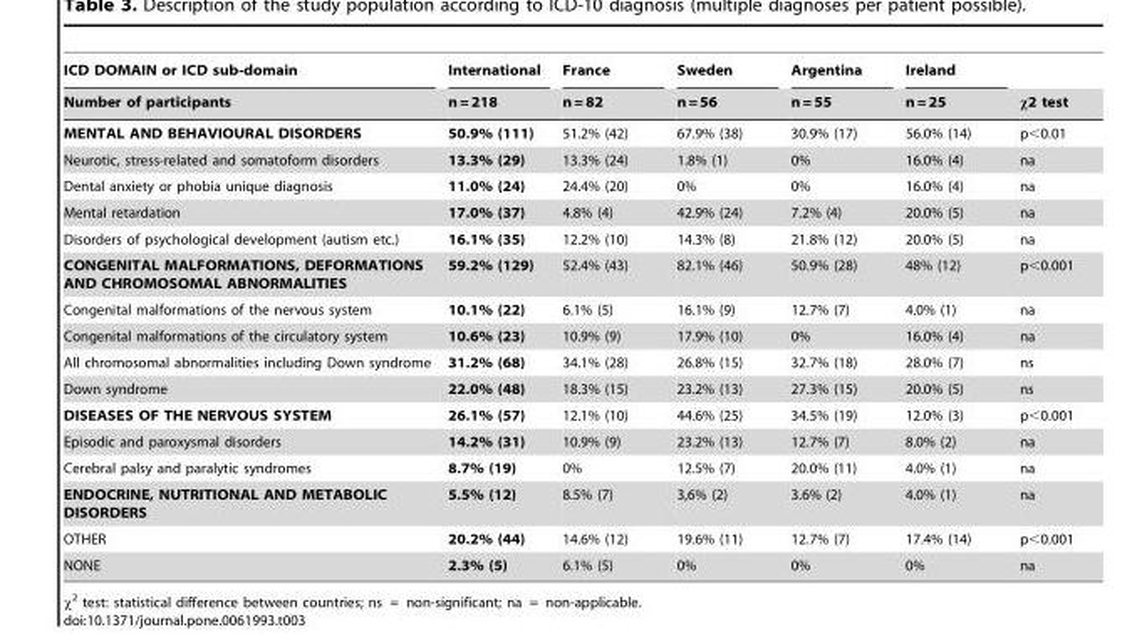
<table><thead><tr><td rowspan="2">ICD DOMAIN or ICD sub-domain Number of participants</td><td rowspan="2">International n = 218</td><td rowspan="2">France n = 82</td><td rowspan="2">Sweden n = 56</td><td rowspan="2">Argentina n = 55</td><td rowspan="2">Ireland n = 25</td><td rowspan="2">x2 test</td></tr><tr></tr></thead><tbody><tr><td>MENTAL AND BEHAVIOURAL DISORDERS</td><td>50.9% (111)</td><td>51.2% (42)</td><td>67.9% (38)</td><td>30.9% (17)</td><td>56.0% (14)</td><td>p&lt;0.01</td></tr><tr><td>Neurotic, stress-related and somatoform disorders</td><td>13.3% (29)</td><td>13.3% (24)</td><td>1.8% (1)</td><td>0%</td><td>16.0% (4)</td><td>na</td></tr><tr><td>Dental anxiety or phobia unique diagnosis</td><td>11.0% (24)</td><td>24.4% (20)</td><td>0%</td><td>0%</td><td>16.0% (4)</td><td>na</td></tr><tr><td>Mental retardation</td><td>17.0% (37)</td><td>4.8% (4)</td><td>42.9% (24)</td><td>7.2% (4)</td><td>20.0% (5)</td><td>na</td></tr><tr><td>Disorders of psychological development (autism etc.)</td><td>16.1% (35)</td><td>12.2% (10)</td><td>14.3% (8)</td><td>21.8% (12)</td><td>20.0% (5)</td><td>na</td></tr><tr><td>CONGENITAL MALFORMATIONS, DEFORMATIONS AND CHROMOSOMAL ABNORMALITIES</td><td>59.2% (129)</td><td>52.4% (43)</td><td>82.1% (46)</td><td>50.9% (28)</td><td>48% (12)</td><td>p&lt;0.001</td></tr><tr><td>Congenital malformations of the nervous system</td><td>10.1% (22)</td><td>6.1% (5)</td><td>16.1% (9)</td><td>12.7% (7)</td><td>4.0% (1)</td><td>na</td></tr><tr><td>Congenital malformations of the circulatory system</td><td>10.6% (23)</td><td>10.9% (9)</td><td>17.9% (10)</td><td>0%</td><td>16.0% (4)</td><td>na</td></tr><tr><td>All chromosomal abnormalities including Down syndrome</td><td>31.2% (68)</td><td>34.1% (28)</td><td>26.8% (15)</td><td>32.7% (18)</td><td>28.0% (7)</td><td>ns</td></tr><tr><td>Down syndrome</td><td>22.0% (48)</td><td>18.3% (15)</td><td>23.2% (13)</td><td>27.3% (15)</td><td>20.0% (5)</td><td>ns</td></tr><tr><td>DISEASES OF THE NERVOUS SYSTEM</td><td>26.1% (57)</td><td>12.1% (10)</td><td>44.6% (25)</td><td>34.5% (19)</td><td>12.0% (3)</td><td>p&lt;0.001</td></tr><tr><td>Episodic and paroxysmal disorders</td><td>14.2% (31)</td><td>10.9% (9)</td><td>23.2% (13)</td><td>12.7% (7)</td><td>8.0% (2)</td><td>na</td></tr><tr><td>Cerebral palsy and paralytic syndromes</td><td>8.7% (19)</td><td>0%</td><td>12.5% (7)</td><td>20.0% (11)</td><td>4.0% (1)</td><td>na</td></tr><tr><td>ENDOCRINE, NUTRITIONAL AND METABOLIC DISORDERS</td><td>5.5% (12)</td><td>8.5% (7)</td><td>3,6% (2)</td><td>3.6% (2)</td><td>4.0% (1)</td><td>na</td></tr><tr><td>OTHER</td><td>20.2% (44)</td><td>14.6% (12)</td><td>19.6% (11)</td><td>12.7% (7)</td><td>17.4% (14)</td><td>p&lt;0.001</td></tr><tr><td>NONE</td><td>2.3% (5)</td><td>6.1% (5)</td><td>0%</td><td>0%</td><td>0%</td><td>na</td></tr></tbody></table>